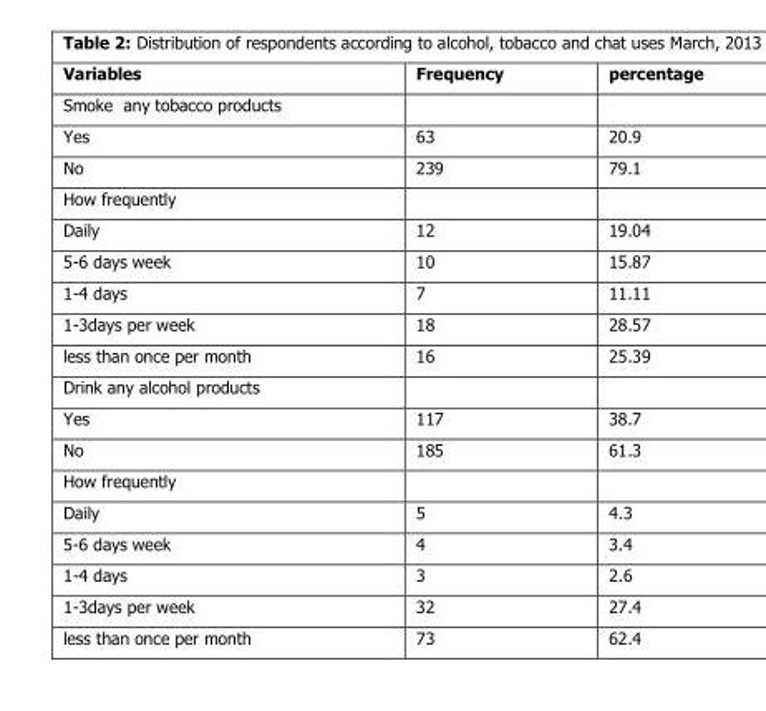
<table><thead><tr><td>Variables</td><td>Frequency</td><td>percentage</td></tr></thead><tbody><tr><td colspan="3">Smoke any tobacco products</td></tr><tr><td>Yes</td><td>63</td><td>20.9</td></tr><tr><td>No</td><td>239</td><td>79.1</td></tr><tr><td colspan="3">How frequently</td></tr><tr><td>Daily</td><td>12</td><td>19.04</td></tr><tr><td>5-6 days week</td><td>10</td><td>15.87</td></tr><tr><td>1-4 days</td><td>7</td><td>11.11</td></tr><tr><td>1-3days per week</td><td>18</td><td>28.57</td></tr><tr><td>less than once per month</td><td>16</td><td>25.39</td></tr><tr><td colspan="3">Drink any alcohol products</td></tr><tr><td>Yes</td><td>117</td><td>38.7</td></tr><tr><td>No</td><td>185</td><td>61.3</td></tr><tr><td colspan="3">How frequently</td></tr><tr><td>Daily</td><td>5</td><td>4.3</td></tr><tr><td>5-6 days week</td><td>4</td><td>3.4</td></tr><tr><td>1-4 days</td><td>3</td><td>2.6</td></tr><tr><td>1-3days per week</td><td>32</td><td>27.4</td></tr><tr><td>less than once per month</td><td>73</td><td>62.4</td></tr></tbody></table>